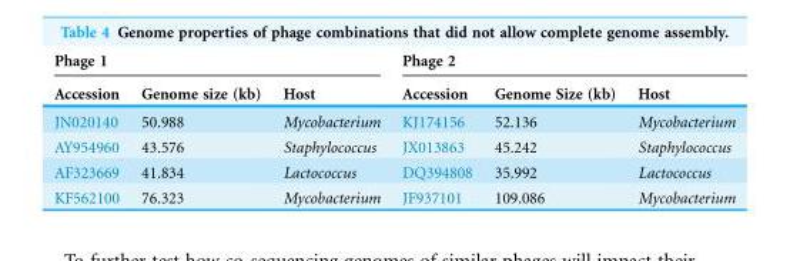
<table><thead><tr><td colspan="3">Phage 1</td><td colspan="3">Phage 2</td></tr><tr><td>Accession</td><td>Genome size (kb)</td><td>Host</td><td>Accession</td><td>Genome Size (kb)</td><td>Host</td></tr></thead><tbody><tr><td>JN020140</td><td>50.988</td><td>Mycobacterium</td><td>KJ174156</td><td>52.136</td><td>Mycobacterium</td></tr><tr><td>AY954960</td><td>43.576</td><td>Staphylococcus</td><td>JX013863</td><td>45.242</td><td>Staphylococcus</td></tr><tr><td>AF323669</td><td>41.834</td><td>Lactococcus</td><td>DQ394808</td><td>35.992</td><td>Lactococcus</td></tr><tr><td>KF562100</td><td>76.323</td><td>Mycobacterium</td><td>JF937101</td><td>109.086</td><td>Mycobacterium</td></tr></tbody></table>